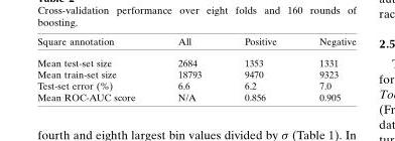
<table><thead><tr><td>Square annotation</td><td>All</td><td>Positive</td><td>Negative</td></tr></thead><tbody><tr><td>Mean test-set size</td><td>2684</td><td>1353</td><td>1331</td></tr><tr><td>Mean train-set size</td><td>18793</td><td>9470</td><td>9323</td></tr><tr><td>Test-set error (%)</td><td>6.6</td><td>6.2</td><td>7.0</td></tr><tr><td>Mean ROC-AUC score</td><td>N/A</td><td>0.856</td><td>0.905</td></tr></tbody></table>